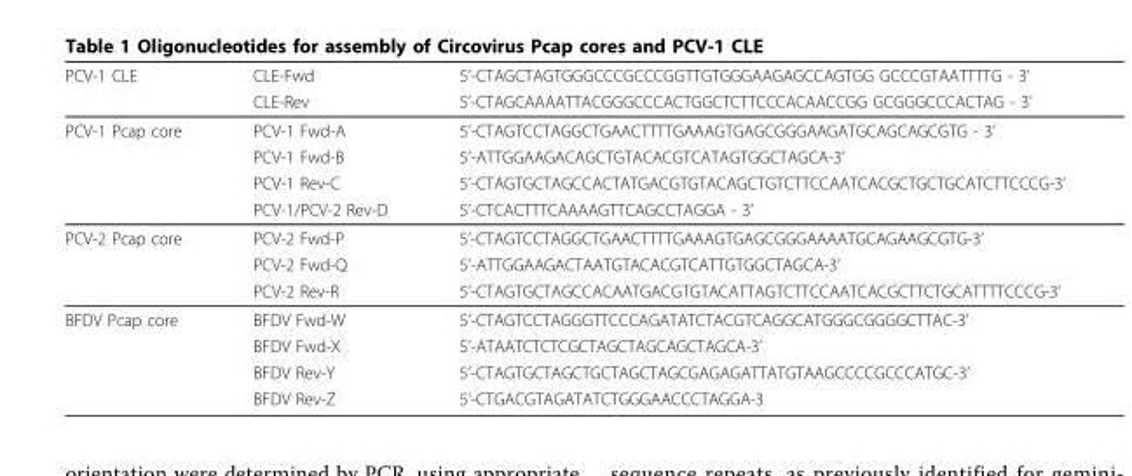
<table><thead><tr><td rowspan="2">PCV-1 CLE</td><td rowspan="2">CLE-Fwd CLE-Rev</td><td rowspan="2">5’-CTAGCTAGTGGGCCCGCCCGGTTGTGGGAAGAGCCAGTGG GCCCGTAATTTTG - 3’ 5’-CTAGCAAAATTACGGGCCCACTGGCTCTTCCCACAACCGG GCGGGCCCACTAG - 3’</td></tr><tr></tr></thead><tbody><tr><td rowspan="4">PCV-1 Pcap core</td><td>PCV-1 Fwd-A</td><td>5’-CTAGTCCTAGGCTGAACTTTTGAAAGTGAGCGGGAAGATGCAGCAGCGTG - 3’</td></tr><tr><td>PCV-1 Fwd-B</td><td>5’-ATTGGAAGACAGCTGTACACGTCATAGTGGCTAGCA-3’</td></tr><tr><td>PCV-1 Rev-C</td><td>5’-CTAGTGCTAGCCACTATGACGTGTACAGCTGTCTTCCAATCACGCTGCTGCATCTTCCCG-3’</td></tr><tr><td>PCV-1/PCV-2 Rev-D</td><td>5’-CTCACTTTCAAAAGTTCAGCCTAGGA - 3’</td></tr><tr><td rowspan="3">PCV-2 Pcap core</td><td>PCV-2 Fwd-P</td><td>5’-CTAGTCCTAGGCTGAACTTTTGAAAGTGAGCGGGAAAATGCAGAAGCGTG-3’</td></tr><tr><td>PCV-2 Fwd-Q</td><td>5’-ATTGGAAGACTAATGTACACGTCATTGTGGCTAGCA-3’</td></tr><tr><td>PCV-2 Rev-R</td><td>5’-CTAGTGCTAGCCACAATGACGTGTACATTAGTCTTCCAATCACGCTTCTGCATTTTCCCG-3’</td></tr><tr><td rowspan="4">BFDV Pcap core</td><td>BFDV Fwd-W</td><td>5’-CTAGTCCTAGGGTTCCCAGATATCTACGTCAGGCATGGGCGGGGCTTAC-3’</td></tr><tr><td>BFDV Fwd-X</td><td>5’-ATAATCTCTCGCTAGCTAGCAGCTAGCA-3’</td></tr><tr><td>BFDV Rev-Y</td><td>5’-CTAGTGCTAGCTGCTAGCTAGCGAGAGATTATGTAAGCCCCGCCCATGC-3’</td></tr><tr><td>BFDV Rev-Z</td><td>5’-CTGACGTAGATATCTGGGAACCCTAGGA-3</td></tr></tbody></table>